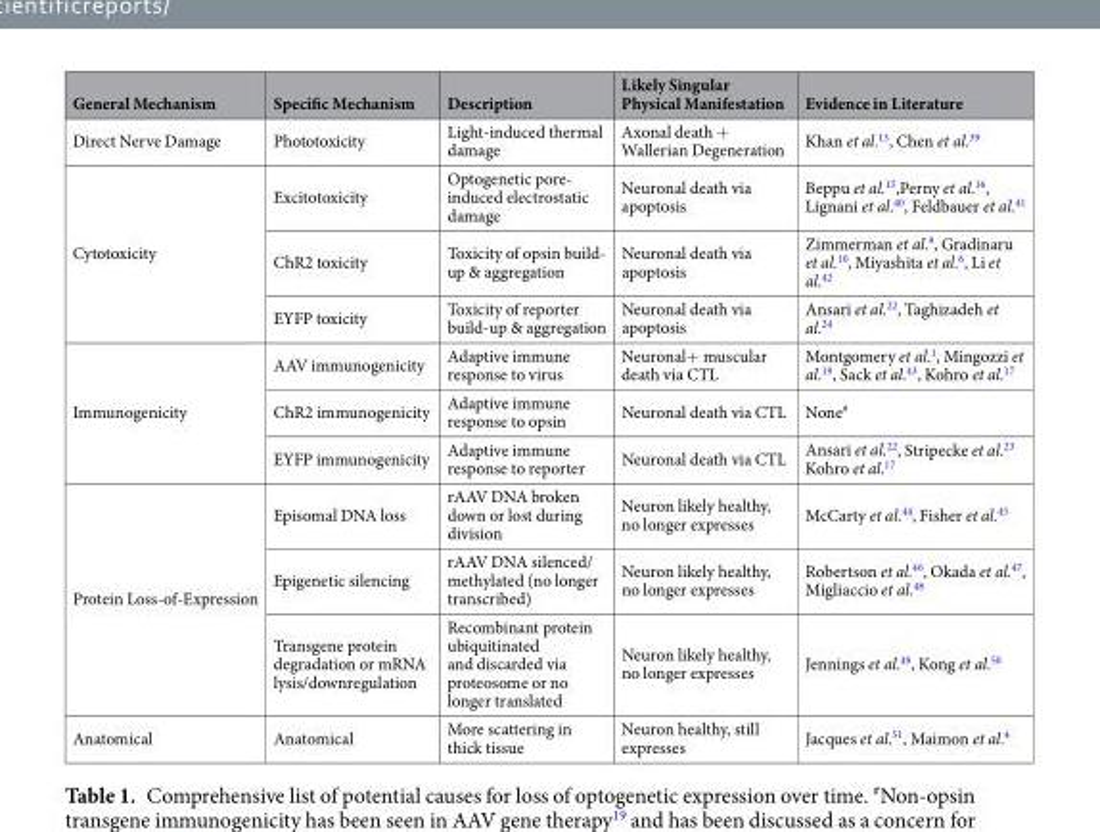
<table><thead><tr><td>General Mechanism</td><td>Specific Mechanism</td><td>Description</td><td>Likely Singular Physical Manifestation</td><td>Evidence in Literature</td></tr></thead><tbody><tr><td>Direct Nerve Damage</td><td>Phototoxicity</td><td>Light-induced thermal damage</td><td>Axonal death + Wallerian Degeneration</td><td>Khan et al.<sup>13</sup>, Chen et al.<sup>39</sup></td></tr><tr><td rowspan="3">Cytotoxicity</td><td>Excitotoxicity</td><td>Optogenetic pore- induced electrostatic damage</td><td>Neuronal death via apoptosis</td><td>Beppu et al.<sup>15</sup>,Perny et al.<sup>16</sup>, Lignani et al.<sup>40</sup>, Feldbauer et al.<sup>41</sup></td></tr><tr><td>ChR2 toxicity</td><td>Toxicity of opsin build- up &amp; aggregation</td><td>Neuronal death via apoptosis</td><td>Zimmerman et al.<sup>9</sup>, Gradinaru et al.<sup>10</sup>, Miyashita et al.<sup>6</sup>, Li et al.<sup>42</sup></td></tr><tr><td>EYFP toxicity</td><td>Toxicity of reporter build-up &amp; aggregation</td><td>Neuronal death via apoptosis</td><td>Ansari et al.<sup>22</sup>, Taghizadeh et al.<sup>24</sup></td></tr><tr><td rowspan="3">Immunogenicity</td><td>AAV immunogenicity</td><td>Adaptive immune response to virus</td><td>Neuronal+ muscular death via CTL</td><td>Montgomery et al.<sup>1</sup>, Mingozzi et al.<sup>19</sup>, Sack et al.<sup>43</sup>, Kohro et al.<sup>17</sup></td></tr><tr><td>ChR2 immunogenicity</td><td>Adaptive immune response to opsin</td><td>Neuronal death via CTL</td><td>None<sup>#</sup></td></tr><tr><td>EYFP immunogenicity</td><td>Adaptive immune response to reporter</td><td>Neuronal death via CTL</td><td>Ansari et al.<sup>22</sup>, Stripecke et al.<sup>23</sup> Kohro et al.<sup>17</sup></td></tr><tr><td rowspan="3">Protein Loss-of-Expression</td><td>Episomal DNA loss</td><td>rAAV DNA broken down or lost during division</td><td>Neuron likely healthy, no longer expresses</td><td>McCarty et al.<sup>44</sup>, Fisher et al.<sup>45</sup></td></tr><tr><td>Epigenetic silencing</td><td>rAAV DNA silenced/ methylated (no longer transcribed)</td><td>Neuron likely healthy, no longer expresses</td><td>Robertson et al.<sup>46</sup>, Okada et al.<sup>47</sup>, Migliaccio et al.<sup>48</sup></td></tr><tr><td>Transgene protein degradation or mRNA lysis/downregulation</td><td>Recombinant protein ubiquitinated and discarded via proteosome or no longer translated</td><td>Neuron likely healthy, no longer expresses</td><td>Jennings et al.<sup>49</sup>, Kong et al.<sup>50</sup></td></tr><tr><td>Anatomical</td><td>Anatomical</td><td>More scattering in thick tissue</td><td>Neuron healthy, still expresses</td><td>Jacques et al.<sup>51</sup>, Maimon et al.<sup>4</sup></td></tr></tbody></table>